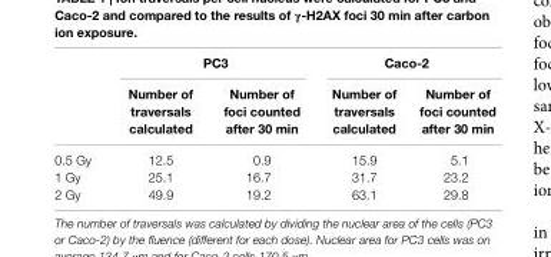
<table><thead><tr><td rowspan="2"></td><td colspan="2">Pc3</td><td colspan="2">caco-2</td></tr><tr><td>number of traversals calculated</td><td>number of foci counted after 30 min</td><td>number of traversals calculated</td><td>number of foci counted after 30 min</td></tr></thead><tbody><tr><td>0.5 Gy</td><td>12.5</td><td>0.9</td><td>15.9</td><td>5.1</td></tr><tr><td>1 Gy</td><td>25.1</td><td>16.7</td><td>31.7</td><td>23.2</td></tr><tr><td>2 Gy</td><td>49.9</td><td>19.2</td><td>63.1</td><td>29.8</td></tr></tbody></table>